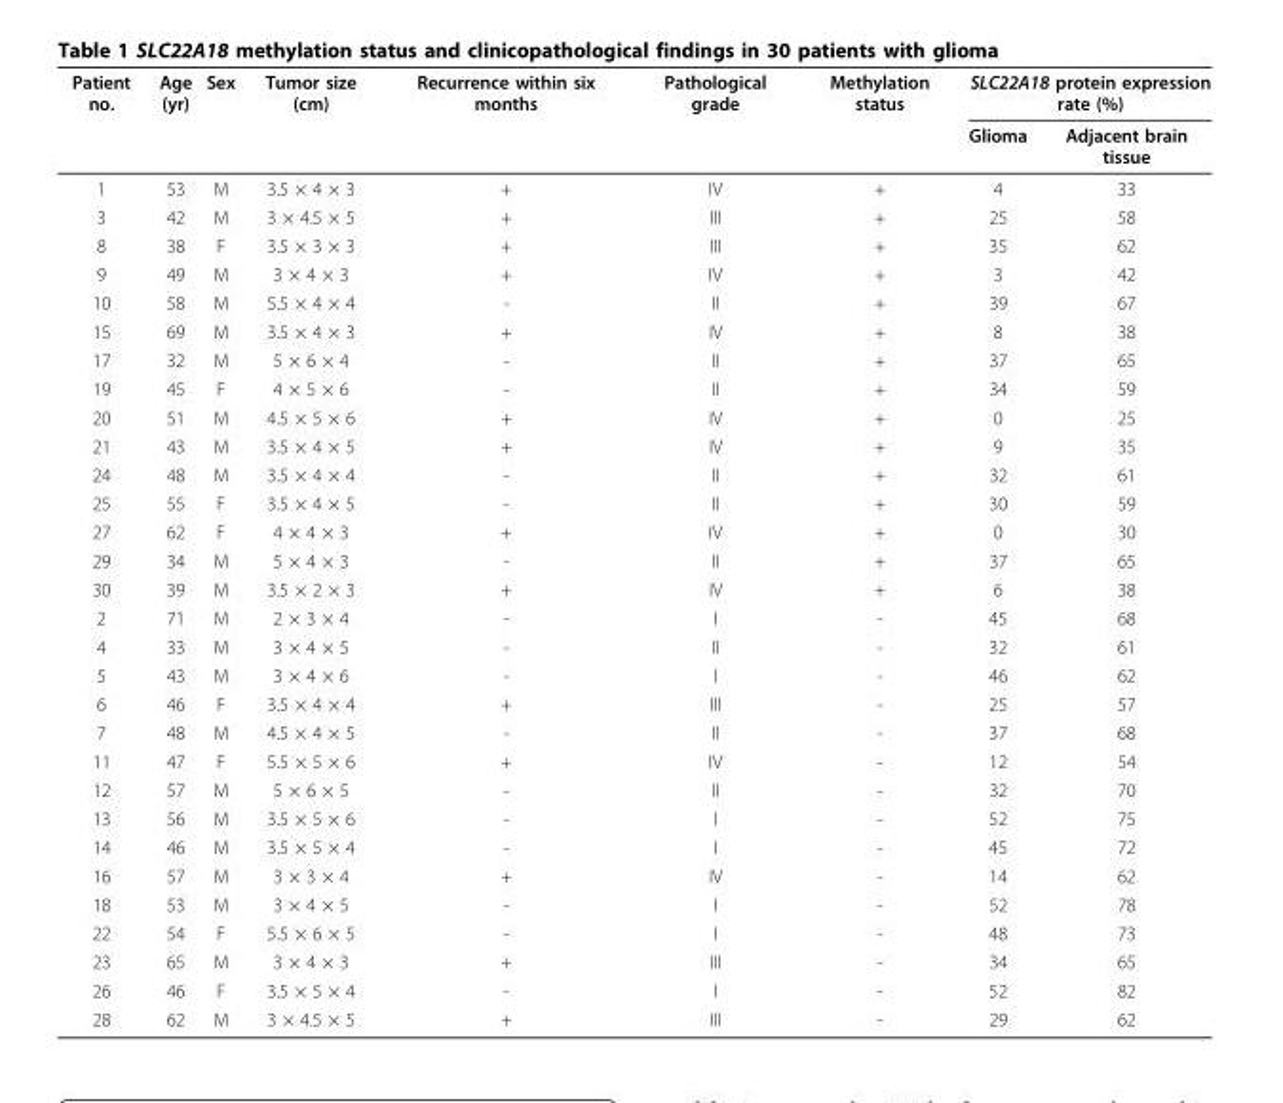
<table><thead><tr><td rowspan="2">Patient no.</td><td rowspan="2">Age (yr)</td><td rowspan="2">Sex</td><td rowspan="2">Tumor size (cm)</td><td rowspan="2">Recurrence within six months</td><td rowspan="2">Pathological grade</td><td rowspan="2">Methylation status</td><td colspan="2">SLC22A18 protein expression rate (%)</td></tr><tr><td>Glioma</td><td>Adjacent brain tissue</td></tr></thead><tbody><tr><td>1</td><td>53</td><td>M</td><td>3.5 × 4 × 3</td><td>+</td><td>IV</td><td>+</td><td>4</td><td>33</td></tr><tr><td>3</td><td>42</td><td>M</td><td>3 × 4.5 × 5</td><td>+</td><td>III</td><td>+</td><td>25</td><td>58</td></tr><tr><td>8</td><td>38</td><td>F</td><td>3.5 × 3 × 3</td><td>+</td><td>III</td><td>+</td><td>35</td><td>62</td></tr><tr><td>9</td><td>49</td><td>M</td><td>3 × 4 × 3</td><td>+</td><td>IV</td><td>+</td><td>3</td><td>42</td></tr><tr><td>10</td><td>58</td><td>M</td><td>5.5 × 4 × 4</td><td>-</td><td>II</td><td>+</td><td>39</td><td>67</td></tr><tr><td>15</td><td>69</td><td>M</td><td>3.5 × 4 × 3</td><td>+</td><td>IV</td><td>+</td><td>8</td><td>38</td></tr><tr><td>17</td><td>32</td><td>M</td><td>5 × 6 × 4</td><td>-</td><td>II</td><td>+</td><td>37</td><td>65</td></tr><tr><td>19</td><td>45</td><td>F</td><td>4 × 5 × 6</td><td>-</td><td>II</td><td>+</td><td>34</td><td>59</td></tr><tr><td>20</td><td>51</td><td>M</td><td>4.5 × 5 × 6</td><td>+</td><td>IV</td><td>+</td><td>0</td><td>25</td></tr><tr><td>21</td><td>43</td><td>M</td><td>3.5 × 4 × 5</td><td>+</td><td>IV</td><td>+</td><td>9</td><td>35</td></tr><tr><td>24</td><td>48</td><td>M</td><td>3.5 × 4 × 4</td><td>-</td><td>II</td><td>+</td><td>32</td><td>61</td></tr><tr><td>25</td><td>55</td><td>F</td><td>3.5 × 4 × 5</td><td>-</td><td>II</td><td>+</td><td>30</td><td>59</td></tr><tr><td>27</td><td>62</td><td>F</td><td>4 × 4 × 3</td><td>+</td><td>IV</td><td>+</td><td>0</td><td>30</td></tr><tr><td>29</td><td>34</td><td>M</td><td>5 × 4 × 3</td><td>-</td><td>II</td><td>+</td><td>37</td><td>65</td></tr><tr><td>30</td><td>39</td><td>M</td><td>3.5 × 2 × 3</td><td>+</td><td>IV</td><td>+</td><td>6</td><td>38</td></tr><tr><td>2</td><td>71</td><td>M</td><td>2 × 3 × 4</td><td>-</td><td>I</td><td>-</td><td>45</td><td>68</td></tr><tr><td>4</td><td>33</td><td>M</td><td>3 × 4 × 5</td><td>-</td><td>II</td><td>-</td><td>32</td><td>61</td></tr><tr><td>5</td><td>43</td><td>M</td><td>3 × 4 × 6</td><td>-</td><td>I</td><td>-</td><td>46</td><td>62</td></tr><tr><td>6</td><td>46</td><td>F</td><td>3.5 × 4 × 4</td><td>+</td><td>III</td><td>-</td><td>25</td><td>57</td></tr><tr><td>7</td><td>48</td><td>M</td><td>4.5 × 4 × 5</td><td>-</td><td>II</td><td>-</td><td>37</td><td>68</td></tr><tr><td>11</td><td>47</td><td>F</td><td>5.5 × 5 × 6</td><td>+</td><td>IV</td><td>-</td><td>12</td><td>54</td></tr><tr><td>12</td><td>57</td><td>M</td><td>5 × 6 × 5</td><td>-</td><td>II</td><td>-</td><td>32</td><td>70</td></tr><tr><td>13</td><td>56</td><td>M</td><td>3.5 × 5 × 6</td><td>-</td><td>I</td><td>-</td><td>52</td><td>75</td></tr><tr><td>14</td><td>46</td><td>M</td><td>3.5 × 5 × 4</td><td>-</td><td>I</td><td>-</td><td>45</td><td>72</td></tr><tr><td>16</td><td>57</td><td>M</td><td>3 × 3 × 4</td><td>+</td><td>IV</td><td>-</td><td>14</td><td>62</td></tr><tr><td>18</td><td>53</td><td>M</td><td>3 × 4 × 5</td><td>-</td><td>I</td><td>-</td><td>52</td><td>78</td></tr><tr><td>22</td><td>54</td><td>F</td><td>5.5 × 6 × 5</td><td>-</td><td>I</td><td>-</td><td>48</td><td>73</td></tr><tr><td>23</td><td>65</td><td>M</td><td>3 × 4 × 3</td><td>+</td><td>III</td><td>-</td><td>34</td><td>65</td></tr><tr><td>26</td><td>46</td><td>F</td><td>3.5 × 5 × 4</td><td>-</td><td>I</td><td>-</td><td>52</td><td>82</td></tr><tr><td>28</td><td>62</td><td>M</td><td>3 × 4.5 × 5</td><td>+</td><td>III</td><td>-</td><td>29</td><td>62</td></tr></tbody></table>